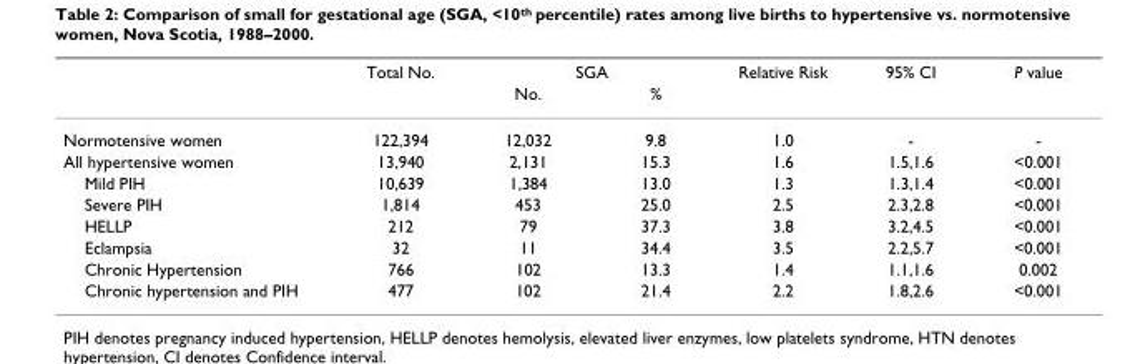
<table><thead><tr><td rowspan="2"></td><td rowspan="2">Total No.</td><td colspan="2">SGA</td><td rowspan="2">Relative Risk</td><td rowspan="2">95% CI</td><td rowspan="2">P value</td></tr><tr><td>No.</td><td>%</td></tr></thead><tbody><tr><td>Normotensive women</td><td>122,394</td><td>12,032</td><td>9.8</td><td>1.0</td><td>-</td><td>-</td></tr><tr><td>All hypertensive women</td><td>13,940</td><td>2,131</td><td>15.3</td><td>1.6</td><td>1.5,1.6</td><td>&lt;0.001</td></tr><tr><td>Mild PIH</td><td>10,639</td><td>1,384</td><td>13.0</td><td>1.3</td><td>1.3,1.4</td><td>&lt;0.001</td></tr><tr><td>Severe PIH</td><td>1,814</td><td>453</td><td>25.0</td><td>2.5</td><td>2.3,2.8</td><td>&lt;0.001</td></tr><tr><td>HELLP</td><td>212</td><td>79</td><td>37.3</td><td>3.8</td><td>3.2,4.5</td><td>&lt;0.001</td></tr><tr><td>Eclampsia</td><td>32</td><td>11</td><td>34.4</td><td>3.5</td><td>2.2,5.7</td><td>&lt;0.001</td></tr><tr><td>Chronic Hypertension</td><td>766</td><td>102</td><td>13.3</td><td>1.4</td><td>1.1,1.6</td><td>0.002</td></tr><tr><td>Chronic hypertension and PIH</td><td>477</td><td>102</td><td>21.4</td><td>2.2</td><td>1.8,2.6</td><td>&lt;0.001</td></tr></tbody></table>